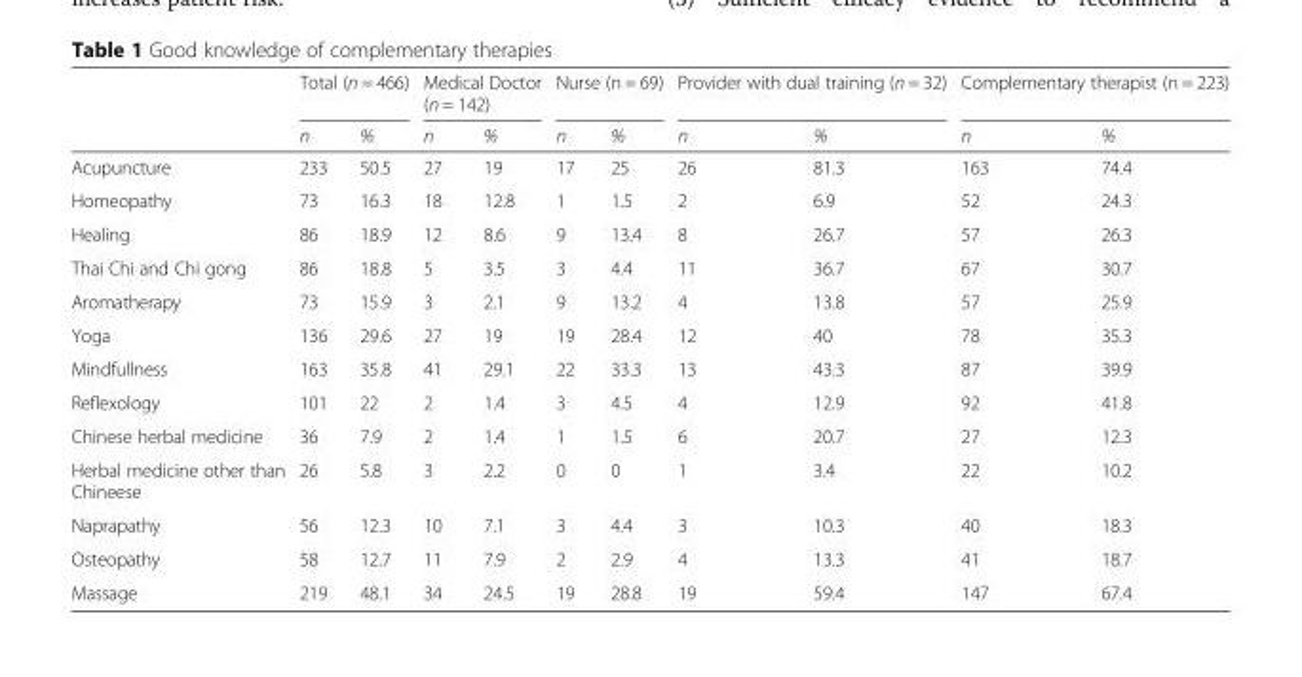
<table><thead><tr><td rowspan="2"></td><td colspan="2">Total (n = 466)</td><td colspan="2">Medical Doctor (n = 142)</td><td colspan="2">Nurse (n = 69)</td><td colspan="2">Provider with dual training (n = 32)</td><td colspan="2">Complementary therapist (n = 223)</td></tr><tr><td>n</td><td>%</td><td>n</td><td>%</td><td>n</td><td>%</td><td>n</td><td>%</td><td>n</td><td>%</td></tr></thead><tbody><tr><td>Acupuncture</td><td>233</td><td>50.5</td><td>27</td><td>19</td><td>17</td><td>25</td><td>26</td><td>81.3</td><td>163</td><td>74.4</td></tr><tr><td>Homeopathy</td><td>73</td><td>16.3</td><td>18</td><td>12.8</td><td>1</td><td>1.5</td><td>2</td><td>6.9</td><td>52</td><td>24.3</td></tr><tr><td>Healing</td><td>86</td><td>18.9</td><td>12</td><td>8.6</td><td>9</td><td>13.4</td><td>8</td><td>26.7</td><td>57</td><td>26.3</td></tr><tr><td>Thai Chi and Chi gong</td><td>86</td><td>18.8</td><td>5</td><td>3.5</td><td>3</td><td>4.4</td><td>11</td><td>36.7</td><td>67</td><td>30.7</td></tr><tr><td>Aromatherapy</td><td>73</td><td>15.9</td><td>3</td><td>2.1</td><td>9</td><td>13.2</td><td>4</td><td>13.8</td><td>57</td><td>25.9</td></tr><tr><td>Yoga</td><td>136</td><td>29.6</td><td>27</td><td>19</td><td>19</td><td>28.4</td><td>12</td><td>40</td><td>78</td><td>35.3</td></tr><tr><td>Mindfullness</td><td>163</td><td>35.8</td><td>41</td><td>29.1</td><td>22</td><td>33.3</td><td>13</td><td>43.3</td><td>87</td><td>39.9</td></tr><tr><td>Reflexology</td><td>101</td><td>22</td><td>2</td><td>1.4</td><td>3</td><td>4.5</td><td>4</td><td>12.9</td><td>92</td><td>41.8</td></tr><tr><td>Chinese herbal medicine</td><td>36</td><td>7.9</td><td>2</td><td>1.4</td><td>1</td><td>1.5</td><td>6</td><td>20.7</td><td>27</td><td>12.3</td></tr><tr><td>Herbal medicine other than Chineese</td><td>26</td><td>5.8</td><td>3</td><td>2.2</td><td>0</td><td>0</td><td>1</td><td>3.4</td><td>22</td><td>10.2</td></tr><tr><td>Naprapathy</td><td>56</td><td>12.3</td><td>10</td><td>7.1</td><td>3</td><td>4.4</td><td>3</td><td>10.3</td><td>40</td><td>18.3</td></tr><tr><td>Osteopathy</td><td>58</td><td>12.7</td><td>11</td><td>7.9</td><td>2</td><td>2.9</td><td>4</td><td>13.3</td><td>41</td><td>18.7</td></tr><tr><td>Massage</td><td>219</td><td>48.1</td><td>34</td><td>24.5</td><td>19</td><td>28.8</td><td>19</td><td>59.4</td><td>147</td><td>67.4</td></tr></tbody></table>